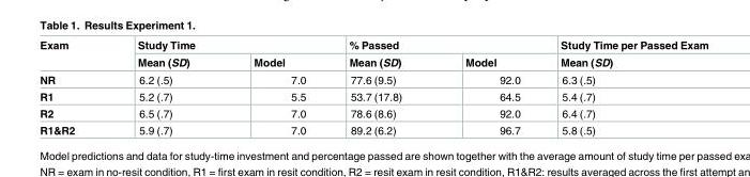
<table><thead><tr><td rowspan="2">Exam</td><td colspan="2">Study Time</td><td colspan="2">% Passed</td><td rowspan="2">Study Time per Passed Exam Mean (SD)</td></tr><tr><td>Mean (SD)</td><td>Model</td><td>Mean (SD)</td><td>Model</td></tr></thead><tbody><tr><td>NR</td><td>6.2 (.5)</td><td>7.0</td><td>77.6 (9.5)</td><td>92.0</td><td>6.3 (.5)</td></tr><tr><td>R1</td><td>5.2 (.7)</td><td>5.5</td><td>53.7 (17.8)</td><td>64.5</td><td>5.4 (.7)</td></tr><tr><td>R2</td><td>6.5 (.7)</td><td>7.0</td><td>78.6 (8.6)</td><td>92.0</td><td>6.4 (.7)</td></tr><tr><td>R1&amp;R2</td><td>5.9 (.7)</td><td>7.0</td><td>89.2 (6.2)</td><td>96.7</td><td>5.8 (.5)</td></tr></tbody></table>